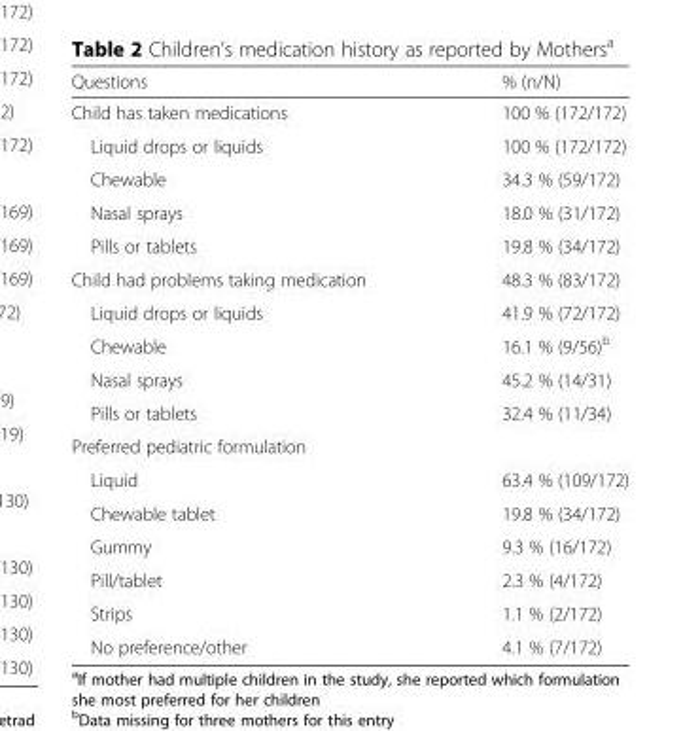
<table><thead><tr><td>Questions</td><td>% (n/N)</td></tr></thead><tbody><tr><td>Child has taken medications</td><td>100 % (172/172)</td></tr><tr><td>Liquid drops or liquids</td><td>100 % (172/172)</td></tr><tr><td>Chewable</td><td>34.3 % (59/172)</td></tr><tr><td>Nasal sprays</td><td>18.0 % (31/172)</td></tr><tr><td>Pills or tablets</td><td>19.8 % (34/172)</td></tr><tr><td>Child had problems taking medication</td><td>48.3 % (83/172)</td></tr><tr><td>Liquid drops or liquids</td><td>41.9 % (72/172)</td></tr><tr><td>Chewable</td><td>16.1 % (9/56)<sup>b</sup></td></tr><tr><td>Nasal sprays</td><td>45.2 % (14/31)</td></tr><tr><td>Pills or tablets</td><td>32.4 % (11/34)</td></tr><tr><td colspan="2">Preferred pediatric formulation</td></tr><tr><td>Liquid</td><td>63.4 % (109/172)</td></tr><tr><td>Chewable tablet</td><td>19.8 % (34/172)</td></tr><tr><td>Gummy</td><td>9.3 % (16/172)</td></tr><tr><td>Pill/tablet</td><td>2.3 % (4/172)</td></tr><tr><td>Strips</td><td>1.1 % (2/172)</td></tr><tr><td>No preference/other</td><td>4.1 % (7/172)</td></tr></tbody></table>